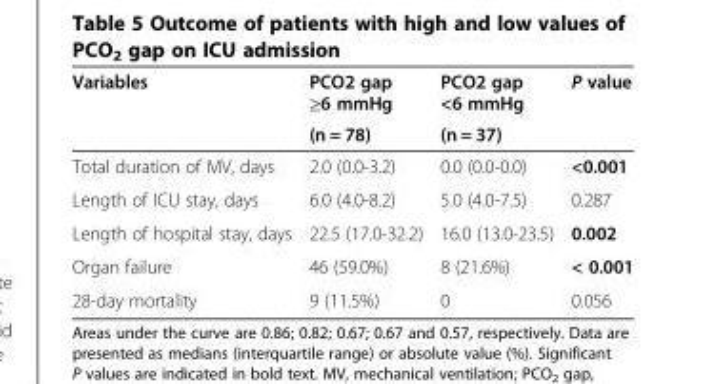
<table><thead><tr><td rowspan="2">Variables</td><td rowspan="2">PCO2 gap ≥6 mmHg (n = 78)</td><td rowspan="2">PCO2 gap &lt;6 mmHg (n = 37)</td><td rowspan="2">P value</td></tr><tr></tr></thead><tbody><tr><td>Total duration of MV, days</td><td>2.0 (0.0-3.2)</td><td>0.0 (0.0-0.0)</td><td>&lt;0.001</td></tr><tr><td>Length of ICU stay, days</td><td>6.0 (4.0-8.2)</td><td>5.0 (4.0-7.5)</td><td>0.287</td></tr><tr><td>Length of hospital stay, days</td><td>22.5 (17.0-32.2)</td><td>16.0 (13.0-23.5)</td><td>0.002</td></tr><tr><td>Organ failure</td><td>46 (59.0%)</td><td>8 (21.6%)</td><td>&lt; 0.001</td></tr><tr><td>28-day mortality</td><td>9 (11.5%)</td><td>0</td><td>0.056</td></tr></tbody></table>